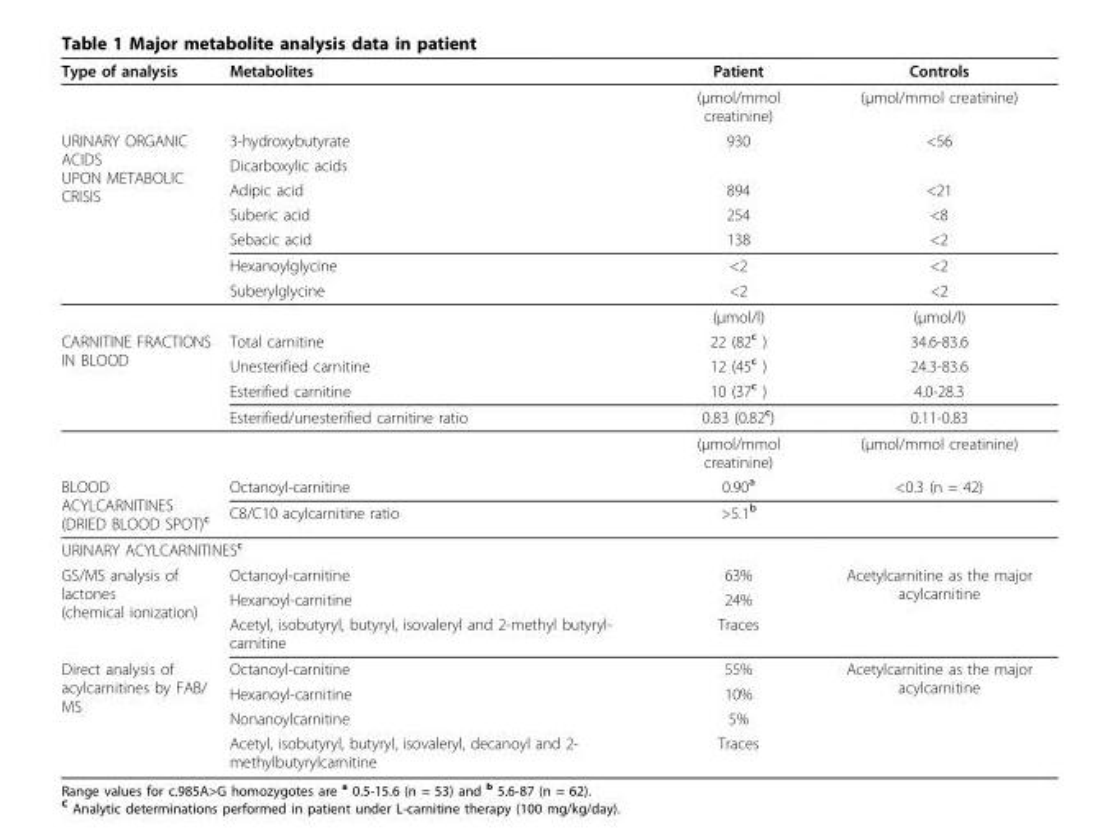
<table><thead><tr><td>Type of analysis</td><td>Metabolites</td><td>Patient</td><td>Controls</td></tr></thead><tbody><tr><td></td><td></td><td>(μmol/mmol creatinine)</td><td>(μmol/mmol creatinine)</td></tr><tr><td rowspan="8">URINARY ORGANIC ACIDS UPON METABOLIC CRISIS</td><td>3-hydroxybutyrate</td><td>930</td><td>&lt;56</td></tr><tr><td>Dicarboxylic acids</td><td></td><td></td></tr><tr><td>Adipic acid</td><td>894</td><td>&lt;21</td></tr><tr><td>Suberic acid</td><td>254</td><td>&lt;8</td></tr><tr><td>Sebacic acid</td><td>138</td><td>&lt;2</td></tr><tr><td>Hexanoylglycine</td><td>&lt;2</td><td>&lt;2</td></tr><tr><td>Suberylglycine</td><td>&lt;2</td><td>&lt;2</td></tr><tr><td></td><td>(μmol/l)</td><td>(μmol/l)</td></tr><tr><td rowspan="5">CARNITINE FRACTIONS IN BLOOD</td><td>Total carnitine</td><td>22 (82<sup>c</sup> )</td><td>34.6-83.6</td></tr><tr><td>Unesterified carnitine</td><td>12 (45<sup>c</sup> )</td><td>24.3-83.6</td></tr><tr><td>Esterified carnitine</td><td>10 (37<sup>c</sup> )</td><td>4.0-28.3</td></tr><tr><td>Esterified/unesterified carnitine ratio</td><td>0.83 (0.82<sup>c</sup>)</td><td>0.11-0.83</td></tr><tr><td></td><td>(μmol/mmol creatinine)</td><td>(μmol/mmol creatinine)</td></tr><tr><td rowspan="2">BLOOD ACYLCARNITINES (DRIED BLOOD SPOT)<sup>c</sup></td><td>Octanoyl-carnitine</td><td>0.90<sup>a</sup></td><td>&lt;0.3 (n = 42)</td></tr><tr><td>C8/C10 acylcarnitine ratio</td><td>&gt;5.1<sup>b</sup></td><td></td></tr><tr><td colspan="4">URINARY ACYLCARNITINES<sup>c</sup></td></tr><tr><td rowspan="3">GS/MS analysis of lactones (chemical ionization)</td><td>Octanoyl-carnitine</td><td>63%</td><td rowspan="3">Acetylcarnitine as the major acylcarnitine</td></tr><tr><td>Hexanoyl-carnitine</td><td>24%</td></tr><tr><td>Acetyl, isobutyryl, butyryl, isovaleryl and 2-methyl butyryl- carnitine</td><td>Traces</td></tr><tr><td rowspan="4">Direct analysis of acylcarnitines by FAB/ MS</td><td>Octanoyl-carnitine</td><td>55%</td><td rowspan="4">Acetylcarnitine as the major acylcarnitine</td></tr><tr><td>Hexanoyl-carnitine</td><td>10%</td></tr><tr><td>Nonanoylcarnitine</td><td>5%</td></tr><tr><td>Acetyl, isobutyryl, butyryl, isovaleryl, decanoyl and 2- methylbutyrylcarnitine</td><td>Traces</td></tr></tbody></table>